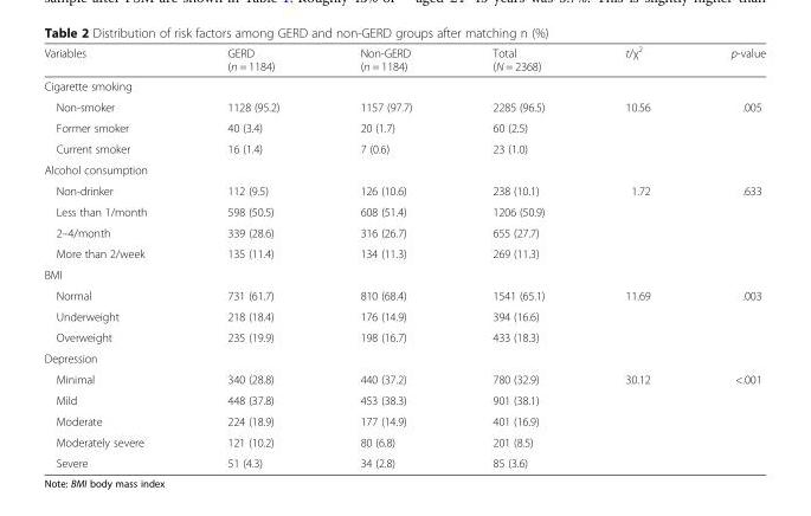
<table><thead><tr><td>Variables</td><td>GERD (n = 1184)</td><td>Non-GERD (n = 1184)</td><td>Total (N = 2368)</td><td>t/χ<sup>2</sup></td><td>p-value</td></tr></thead><tbody><tr><td colspan="6">Cigarette smoking</td></tr><tr><td>Non-smoker</td><td>1128 (95.2)</td><td>1157 (97.7)</td><td>2285 (96.5)</td><td>10.56</td><td>.005</td></tr><tr><td>Former smoker</td><td>40 (3.4)</td><td>20 (1.7)</td><td>60 (2.5)</td><td></td><td></td></tr><tr><td>Current smoker</td><td>16 (1.4)</td><td>7 (0.6)</td><td>23 (1.0)</td><td></td><td></td></tr><tr><td colspan="6">Alcohol consumption</td></tr><tr><td>Non-drinker</td><td>112 (9.5)</td><td>126 (10.6)</td><td>238 (10.1)</td><td>1.72</td><td>.633</td></tr><tr><td>Less than 1/month</td><td>598 (50.5)</td><td>608 (51.4)</td><td>1206 (50.9)</td><td></td><td></td></tr><tr><td>2–4/month</td><td>339 (28.6)</td><td>316 (26.7)</td><td>655 (27.7)</td><td></td><td></td></tr><tr><td>More than 2/week</td><td>135 (11.4)</td><td>134 (11.3)</td><td>269 (11.3)</td><td></td><td></td></tr><tr><td colspan="6">BMI</td></tr><tr><td>Normal</td><td>731 (61.7)</td><td>810 (68.4)</td><td>1541 (65.1)</td><td>11.69</td><td>.003</td></tr><tr><td>Underweight</td><td>218 (18.4)</td><td>176 (14.9)</td><td>394 (16.6)</td><td></td><td></td></tr><tr><td>Overweight</td><td>235 (19.9)</td><td>198 (16.7)</td><td>433 (18.3)</td><td></td><td></td></tr><tr><td colspan="6">Depression</td></tr><tr><td>Minimal</td><td>340 (28.8)</td><td>440 (37.2)</td><td>780 (32.9)</td><td>30.12</td><td>&lt;.001</td></tr><tr><td>Mild</td><td>448 (37.8)</td><td>453 (38.3)</td><td>901 (38.1)</td><td></td><td></td></tr><tr><td>Moderate</td><td>224 (18.9)</td><td>177 (14.9)</td><td>401 (16.9)</td><td></td><td></td></tr><tr><td>Moderately severe</td><td>121 (10.2)</td><td>80 (6.8)</td><td>201 (8.5)</td><td></td><td></td></tr><tr><td>Severe</td><td>51 (4.3)</td><td>34 (2.8)</td><td>85 (3.6)</td><td></td><td></td></tr></tbody></table>